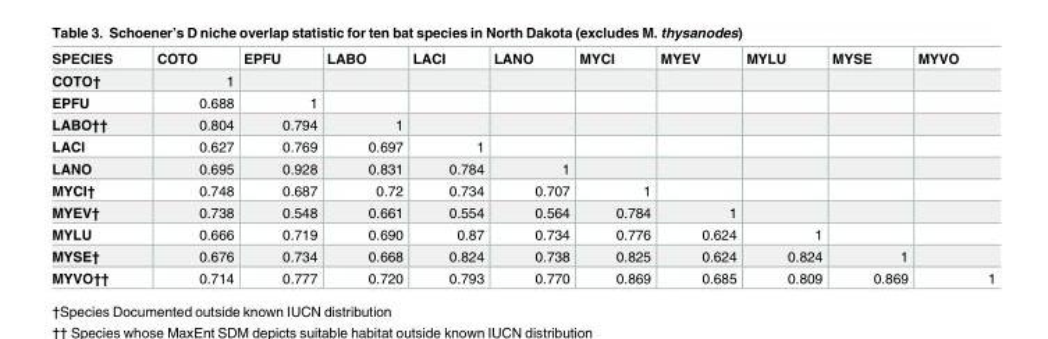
<table><thead><tr><td>SPECIES</td><td>COTO</td><td>EPFU</td><td>LABO</td><td>LACI</td><td>LANO</td><td>MYCI</td><td>MYEV</td><td>MYLU</td><td>MYSE</td><td>MYVO</td></tr></thead><tbody><tr><td>COTO†</td><td>1</td><td></td><td></td><td></td><td></td><td></td><td></td><td></td><td></td><td></td></tr><tr><td>EPFU</td><td>0.688</td><td>1</td><td></td><td></td><td></td><td></td><td></td><td></td><td></td><td></td></tr><tr><td>LABO††</td><td>0.804</td><td>0.794</td><td>1</td><td></td><td></td><td></td><td></td><td></td><td></td><td></td></tr><tr><td>LACI</td><td>0.627</td><td>0.769</td><td>0.697</td><td>1</td><td></td><td></td><td></td><td></td><td></td><td></td></tr><tr><td>LANO</td><td>0.695</td><td>0.928</td><td>0.831</td><td>0.784</td><td>1</td><td></td><td></td><td></td><td></td><td></td></tr><tr><td>MYCI†</td><td>0.748</td><td>0.687</td><td>0.72</td><td>0.734</td><td>0.707</td><td>1</td><td></td><td></td><td></td><td></td></tr><tr><td>MYEV†</td><td>0.738</td><td>0.548</td><td>0.661</td><td>0.554</td><td>0.564</td><td>0.784</td><td>1</td><td></td><td></td><td></td></tr><tr><td>MYLU</td><td>0.666</td><td>0.719</td><td>0.690</td><td>0.87</td><td>0.734</td><td>0.776</td><td>0.624</td><td>1</td><td></td><td></td></tr><tr><td>MYSE†</td><td>0.676</td><td>0.734</td><td>0.668</td><td>0.824</td><td>0.738</td><td>0.825</td><td>0.624</td><td>0.824</td><td>1</td><td></td></tr><tr><td>MYVO††</td><td>0.714</td><td>0.777</td><td>0.720</td><td>0.793</td><td>0.770</td><td>0.869</td><td>0.685</td><td>0.809</td><td>0.869</td><td>1</td></tr></tbody></table>